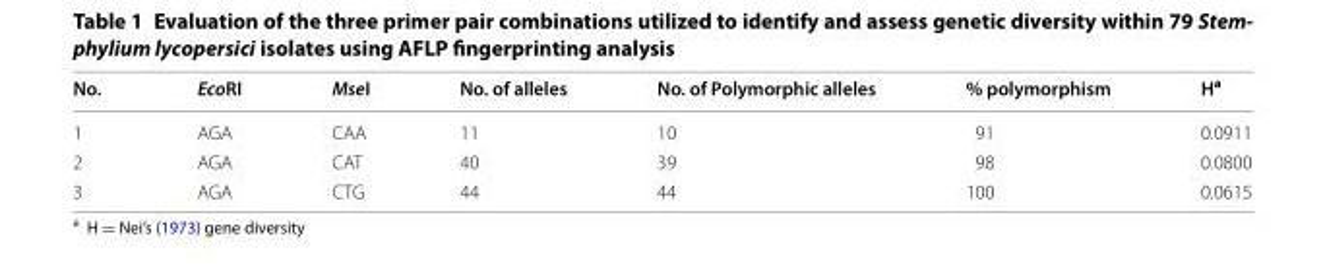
<table><thead><tr><td>No.</td><td>EcoRI</td><td>MseI</td><td>No. of alleles</td><td>No. of Polymorphic alleles</td><td>% polymorphism</td><td>H<sup>a</sup></td></tr></thead><tbody><tr><td>1</td><td>AGA</td><td>CAA</td><td>11</td><td>10</td><td>91</td><td>0.0911</td></tr><tr><td>2</td><td>AGA</td><td>CAT</td><td>40</td><td>39</td><td>98</td><td>0.0800</td></tr><tr><td>3</td><td>AGA</td><td>CTG</td><td>44</td><td>44</td><td>100</td><td>0.0615</td></tr></tbody></table>